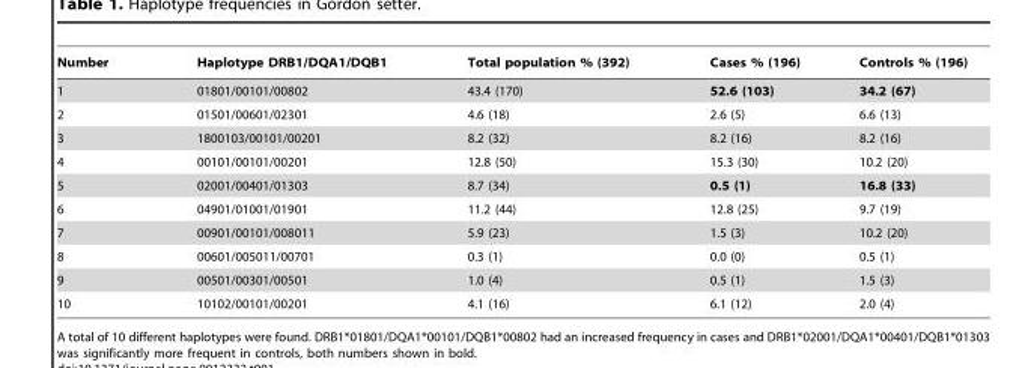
<table><thead><tr><td>Number</td><td>Haplotype DRB1/DQA1/DQB1</td><td>Total population % (392)</td><td>Cases % (196)</td><td>Controls % (196)</td></tr></thead><tbody><tr><td>1</td><td>01801/00101/00802</td><td>43.4 (170)</td><td>52.6 (103)</td><td>34.2 (67)</td></tr><tr><td>2</td><td>01501/00601/02301</td><td>4.6 (18)</td><td>2.6 (5)</td><td>6.6 (13)</td></tr><tr><td>3</td><td>1800103/00101/00201</td><td>8.2 (32)</td><td>8.2 (16)</td><td>8.2 (16)</td></tr><tr><td>4</td><td>00101/00101/00201</td><td>12.8 (50)</td><td>15.3 (30)</td><td>10.2 (20)</td></tr><tr><td>5</td><td>02001/00401/01303</td><td>8.7 (34)</td><td>0.5 (1)</td><td>16.8 (33)</td></tr><tr><td>6</td><td>04901/01001/01901</td><td>11.2 (44)</td><td>12.8 (25)</td><td>9.7 (19)</td></tr><tr><td>7</td><td>00901/00101/008011</td><td>5.9 (23)</td><td>1.5 (3)</td><td>10.2 (20)</td></tr><tr><td>8</td><td>00601/005011/00701</td><td>0.3 (1)</td><td>0.0 (0)</td><td>0.5 (1)</td></tr><tr><td>9</td><td>00501/00301/00501</td><td>1.0 (4)</td><td>0.5 (1)</td><td>1.5 (3)</td></tr><tr><td>10</td><td>10102/00101/00201</td><td>4.1 (16)</td><td>6.1 (12)</td><td>2.0 (4)</td></tr></tbody></table>